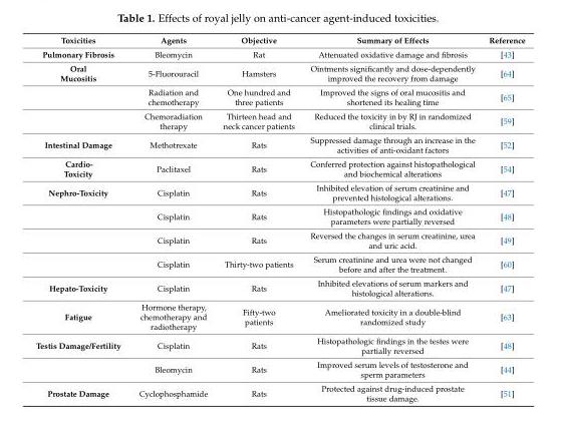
<table><thead><tr><td>Toxicities</td><td>Agents</td><td>Objective</td><td>Summary of Effects</td><td>Reference</td></tr></thead><tbody><tr><td>Pulmonary Fibrosis</td><td>Bleomycin</td><td>Rat</td><td>Attenuated oxidative damage and fibrosis</td><td>[43]</td></tr><tr><td rowspan="3">Oral Mucositis</td><td>5-Fluorouracil</td><td>Hamsters</td><td>Ointments significantly and dose-dependently improved the recovery from damage</td><td>[64]</td></tr><tr><td>Radiation and chemotherapy</td><td>One hundred and three patients</td><td>Improved the signs of oral mucositis and shortened its healing time</td><td>[65]</td></tr><tr><td>Chemoradiation therapy</td><td>Thirteen head and neck cancer patients</td><td>Reduced the toxicity in by RJ in randomized clinical trials.</td><td>[59]</td></tr><tr><td>Intestinal Damage</td><td>Methotrexate</td><td>Rats</td><td>Suppressed damage through an increase in the activities of anti-oxidant factors</td><td>[52]</td></tr><tr><td>Cardio- Toxicity</td><td>Paclitaxel</td><td>Rats</td><td>Conferred protection against histopathological and biochemical alterations</td><td>[54]</td></tr><tr><td rowspan="4">Nephro-Toxicity</td><td>Cisplatin</td><td>Rats</td><td>Inhibited elevation of serum creatinine and prevented histological alterations.</td><td>[47]</td></tr><tr><td>Cisplatin</td><td>Rats</td><td>Histopathologic findings and oxidative parameters were partially reversed</td><td>[48]</td></tr><tr><td>Cisplatin</td><td>Rats</td><td>Reversed the changes in serum creatinine, urea and uric acid.</td><td>[49]</td></tr><tr><td>Cisplatin</td><td>Thirty-two patients</td><td>Serum creatinine and urea were not changed before and after the treatment.</td><td>[60]</td></tr><tr><td>Hepato-Toxicity</td><td>Cisplatin</td><td>Rats</td><td>Inhibited elevations of serum markers and histological alterations.</td><td>[47]</td></tr><tr><td>Fatigue</td><td>Hormone therapy, chemotherapy and radiotherapy</td><td>Fifty-two patients</td><td>Ameliorated toxicity in a double-blind randomized study</td><td>[63]</td></tr><tr><td rowspan="2">Testis Damage/Fertility</td><td>Cisplatin</td><td>Rats</td><td>Histopathologic findings in the testes were partially reversed</td><td>[48]</td></tr><tr><td>Bleomycin</td><td>Rats</td><td>Improved serum levels of testosterone and sperm parameters</td><td>[44]</td></tr><tr><td>Prostate Damage</td><td>Cyclophosphamide</td><td>Rats</td><td>Protected against drug-induced prostate tissue damage.</td><td>[51]</td></tr></tbody></table>